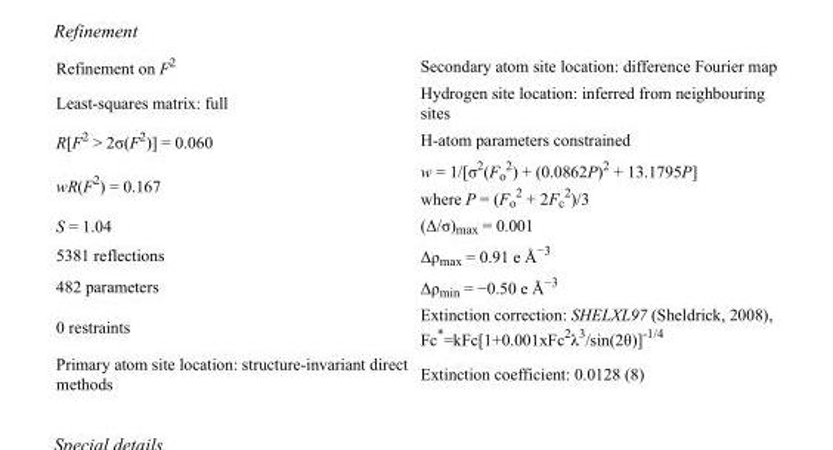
<table><tbody><tr><td>Refinement on F<sup>2</sup></td><td>Secondary atom site location: difference Fourier map</td></tr><tr><td>Least-squares matrix: full</td><td>Hydrogen site location: inferred from neighbouring sites</td></tr><tr><td>R[F<sup>2</sup> &gt; 2σ(F<sup>2</sup>)] = 0.060</td><td>H-atom parameters constrained</td></tr><tr><td>wR(F<sup>2</sup>) = 0.167</td><td>w = 1/[σ<sup>2</sup>(F<sub>o</sub> <sup>2</sup>) + (0.0862P)<sup>2</sup> + 13.1795P] where P = (F<sub>o</sub> <sup>2</sup> + 2F<sub>c</sub> <sup>2</sup>)/3</td></tr><tr><td>S = 1.04</td><td>(Δ/σ)<sub>max</sub> = 0.001</td></tr><tr><td>5381 reflections</td><td>Δρ<sub>max</sub> = 0.91 e Å<sup>−3</sup></td></tr><tr><td>482 parameters</td><td>Δρ<sub>min</sub> = −0.50 e Å<sup>−3</sup></td></tr><tr><td>0 restraints</td><td>Extinction correction: SHELXL97 (Sheldrick, 2008), Fc*=kFc[1+0.001xFc<sup>2</sup>λ<sup>3</sup>/sin(2θ)]<sup>-1/4</sup></td></tr><tr><td>Primary atom site location: structure-invariant direct methods</td><td>Extinction coefficient: 0.0128 (8)</td></tr></tbody></table>